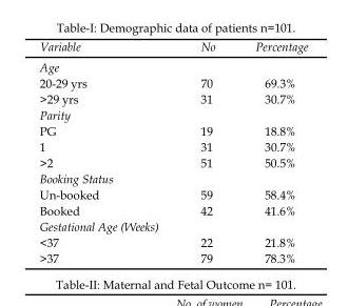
<table><thead><tr><td>Variable</td><td>No</td><td>Percentage</td></tr></thead><tbody><tr><td colspan="3">Age</td></tr><tr><td>20-29 yrs</td><td>70</td><td>69.3%</td></tr><tr><td>&gt;29 yrs</td><td>31</td><td>30.7%</td></tr><tr><td colspan="3">Parity</td></tr><tr><td>PG</td><td>19</td><td>18.8%</td></tr><tr><td>1</td><td>31</td><td>30.7%</td></tr><tr><td>&gt;2</td><td>51</td><td>50.5%</td></tr><tr><td colspan="3">Booking Status</td></tr><tr><td>Un-booked</td><td>59</td><td>58.4%</td></tr><tr><td>Booked</td><td>42</td><td>41.6%</td></tr><tr><td colspan="3">Gestational Age (Weeks)</td></tr><tr><td>&lt;37</td><td>22</td><td>21.8%</td></tr><tr><td>&gt;37</td><td>79</td><td>78.3%</td></tr></tbody></table>